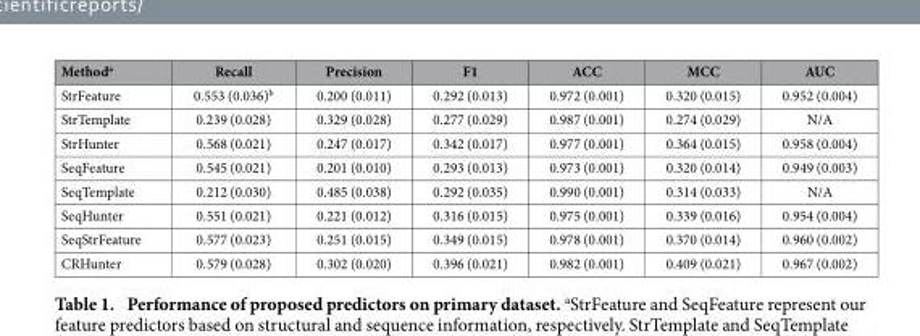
<table><thead><tr><td>Method<sup>a</sup></td><td>Recall</td><td>Precision</td><td>F1</td><td>ACC</td><td>MCC</td><td>AUC</td></tr></thead><tbody><tr><td>StrFeature</td><td>0.553 (0.036)<sup>b</sup></td><td>0.200 (0.011)</td><td>0.292 (0.013)</td><td>0.972 (0.001)</td><td>0.320 (0.015)</td><td>0.952 (0.004)</td></tr><tr><td>StrTemplate</td><td>0.239 (0.028)</td><td>0.329 (0.028)</td><td>0.277 (0.029)</td><td>0.987 (0.001)</td><td>0.274 (0.029)</td><td>N/A</td></tr><tr><td>StrHunter</td><td>0.568 (0.021)</td><td>0.247 (0.017)</td><td>0.342 (0.017)</td><td>0.977 (0.001)</td><td>0.364 (0.015)</td><td>0.958 (0.004)</td></tr><tr><td>SeqFeature</td><td>0.545 (0.021)</td><td>0.201 (0.010)</td><td>0.293 (0.013)</td><td>0.973 (0.001)</td><td>0.320 (0.014)</td><td>0.949 (0.003)</td></tr><tr><td>SeqTemplate</td><td>0.212 (0.030)</td><td>0.485 (0.038)</td><td>0.292 (0.035)</td><td>0.990 (0.001)</td><td>0.314 (0.033)</td><td>N/A</td></tr><tr><td>SeqHunter</td><td>0.551 (0.021)</td><td>0.221 (0.012)</td><td>0.316 (0.015)</td><td>0.975 (0.001)</td><td>0.339 (0.016)</td><td>0.954 (0.004)</td></tr><tr><td>SeqStrFeature</td><td>0.577 (0.023)</td><td>0.251 (0.015)</td><td>0.349 (0.015)</td><td>0.978 (0.001)</td><td>0.370 (0.014)</td><td>0.960 (0.002)</td></tr><tr><td>CRHunter</td><td>0.579 (0.028)</td><td>0.302 (0.020)</td><td>0.396 (0.021)</td><td>0.982 (0.001)</td><td>0.409 (0.021)</td><td>0.967 (0.002)</td></tr></tbody></table>